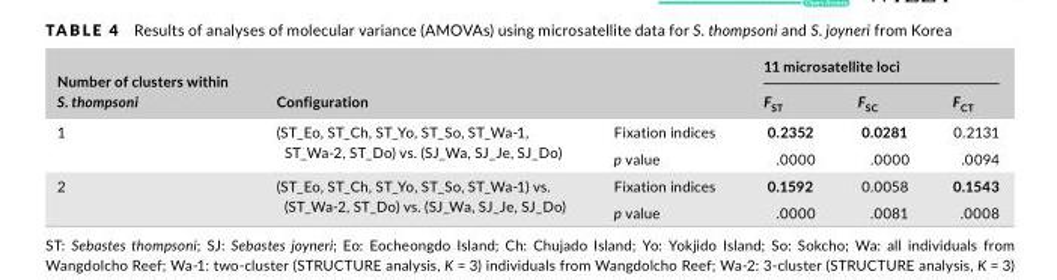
<table><thead><tr><td rowspan="2">Number of clusters within S. thompsoni</td><td rowspan="2">Configuration</td><td rowspan="2"></td><td colspan="3">11 microsatellite loci</td></tr><tr><td>F<sub>ST</sub></td><td>F<sub>SC</sub></td><td>F<sub>CT</sub></td></tr></thead><tbody><tr><td rowspan="2">1</td><td rowspan="2">(ST_Eo, ST_Ch, ST_Yo, ST_So, ST_Wa- 1, ST_Wa- 2, ST_Do) vs. (SJ_Wa, SJ_Je, SJ_Do)</td><td>Fixation indices</td><td>0.2352</td><td>0.0281</td><td>0.2131</td></tr><tr><td>p value</td><td>.0000</td><td>.0000</td><td>.0094</td></tr><tr><td rowspan="2">2</td><td rowspan="2">(ST_Eo, ST_Ch, ST_Yo, ST_So, ST_Wa- 1) vs. (ST_Wa- 2, ST_Do) vs. (SJ_Wa, SJ_Je, SJ_Do)</td><td>Fixation indices</td><td>0.1592</td><td>0.0058</td><td>0.1543</td></tr><tr><td>p value</td><td>.0000</td><td>.0081</td><td>.0008</td></tr></tbody></table>